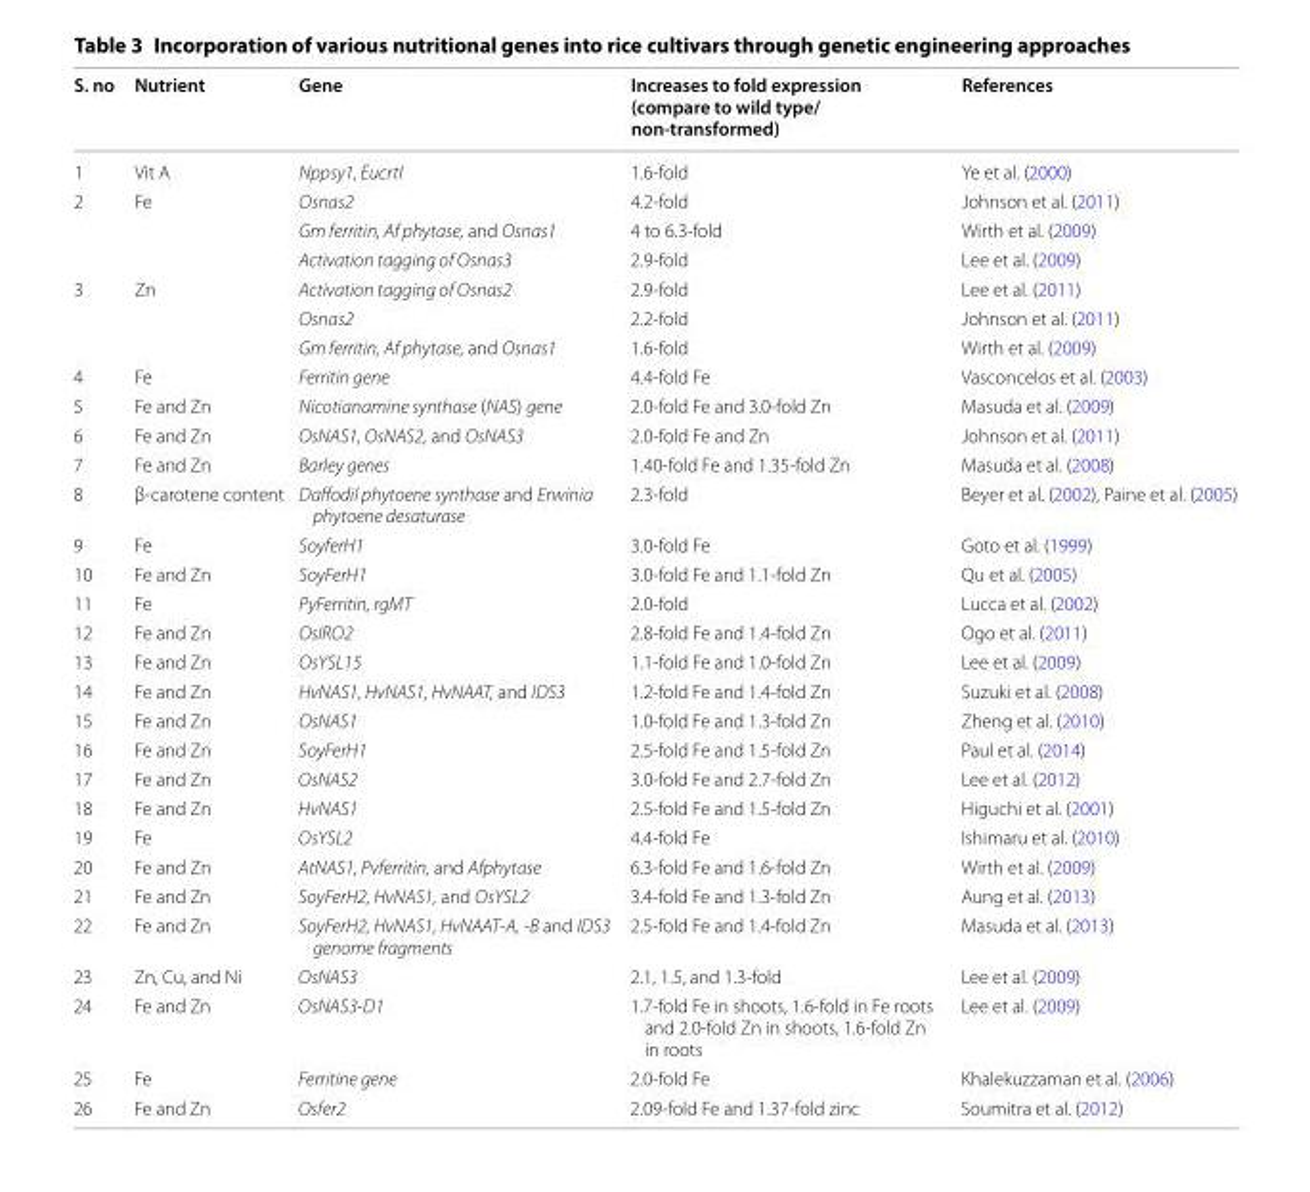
<table><thead><tr><td>S. no</td><td>Nutrient</td><td>Gene</td><td>Increases to fold expression (compare to wild type/ non-transformed)</td><td>References</td></tr></thead><tbody><tr><td>1</td><td>Vit A</td><td>Nppsy1, EucrtI</td><td>1.6-fold</td><td>Ye et al. (2000)</td></tr><tr><td rowspan="3">2</td><td rowspan="3">Fe</td><td>Osnas2</td><td>4.2-fold</td><td>Johnson et al. (2011)</td></tr><tr><td>Gm ferritin, Af phytase, and Osnas1</td><td>4 to 6.3-fold</td><td>Wirth et al. (2009)</td></tr><tr><td>Activation tagging of Osnas3</td><td>2.9-fold</td><td>Lee et al. (2009)</td></tr><tr><td rowspan="3">3</td><td rowspan="3">Zn</td><td>Activation tagging of Osnas2</td><td>2.9-fold</td><td>Lee et al. (2011)</td></tr><tr><td>Osnas2</td><td>2.2-fold</td><td>Johnson et al. (2011)</td></tr><tr><td>Gm ferritin, Af phytase, and Osnas1</td><td>1.6-fold</td><td>Wirth et al. (2009)</td></tr><tr><td>4</td><td>Fe</td><td>Ferritin gene</td><td>4.4-fold Fe</td><td>Vasconcelos et al. (2003)</td></tr><tr><td>5</td><td>Fe and Zn</td><td>Nicotianamine synthase (NAS) gene</td><td>2.0-fold Fe and 3.0-fold Zn</td><td>Masuda et al. (2009)</td></tr><tr><td>6</td><td>Fe and Zn</td><td>OsNAS1, OsNAS2, and OsNAS3</td><td>2.0-fold Fe and Zn</td><td>Johnson et al. (2011)</td></tr><tr><td>7</td><td>Fe and Zn</td><td>Barley genes</td><td>1.40-fold Fe and 1.35-fold Zn</td><td>Masuda et al. (2008)</td></tr><tr><td>8</td><td>β-carotene content</td><td>Daffodil phytoene synthase and Erwinia phytoene desaturase</td><td>2.3-fold</td><td>Beyer et al. (2002), Paine et al. (2005)</td></tr><tr><td>9</td><td>Fe</td><td>SoyferH1</td><td>3.0-fold Fe</td><td>Goto et al. (1999)</td></tr><tr><td>10</td><td>Fe and Zn</td><td>SoyFerH1</td><td>3.0-fold Fe and 1.1-fold Zn</td><td>Qu et al. (2005)</td></tr><tr><td>11</td><td>Fe</td><td>PyFerritin, rgMT</td><td>2.0-fold</td><td>Lucca et al. (2002)</td></tr><tr><td>12</td><td>Fe and Zn</td><td>OsIRO2</td><td>2.8-fold Fe and 1.4-fold Zn</td><td>Ogo et al. (2011)</td></tr><tr><td>13</td><td>Fe and Zn</td><td>OsYSL15</td><td>1.1-fold Fe and 1.0-fold Zn</td><td>Lee et al. (2009)</td></tr><tr><td>14</td><td>Fe and Zn</td><td>HvNAS1, HvNAS1, HvNAAT, and IDS3</td><td>1.2-fold Fe and 1.4-fold Zn</td><td>Suzuki et al. (2008)</td></tr><tr><td>15</td><td>Fe and Zn</td><td>OsNAS1</td><td>1.0-fold Fe and 1.3-fold Zn</td><td>Zheng et al. (2010)</td></tr><tr><td>16</td><td>Fe and Zn</td><td>SoyFerH1</td><td>2.5-fold Fe and 1.5-fold Zn</td><td>Paul et al. (2014)</td></tr><tr><td>17</td><td>Fe and Zn</td><td>OsNAS2</td><td>3.0-fold Fe and 2.7-fold Zn</td><td>Lee et al. (2012)</td></tr><tr><td>18</td><td>Fe and Zn</td><td>HvNAS1</td><td>2.5-fold Fe and 1.5-fold Zn</td><td>Higuchi et al. (2001)</td></tr><tr><td>19</td><td>Fe</td><td>OsYSL2</td><td>4.4-fold Fe</td><td>Ishimaru et al. (2010)</td></tr><tr><td>20</td><td>Fe and Zn</td><td>AtNAS1, Pvferritin, and Afphytase</td><td>6.3-fold Fe and 1.6-fold Zn</td><td>Wirth et al. (2009)</td></tr><tr><td>21</td><td>Fe and Zn</td><td>SoyFerH2, HvNAS1, and OsYSL2</td><td>3.4-fold Fe and 1.3-fold Zn</td><td>Aung et al. (2013)</td></tr><tr><td>22</td><td>Fe and Zn</td><td>SoyFerH2, HvNAS1, HvNAAT-A, -B and IDS3 genome fragments</td><td>2.5-fold Fe and 1.4-fold Zn</td><td>Masuda et al. (2013)</td></tr><tr><td>23</td><td>Zn, Cu, and Ni</td><td>OsNAS3</td><td>2.1, 1.5, and 1.3-fold</td><td>Lee et al. (2009)</td></tr><tr><td>24</td><td>Fe and Zn</td><td>OsNAS3-D1</td><td>1.7-fold Fe in shoots, 1.6-fold in Fe roots and 2.0-fold Zn in shoots, 1.6-fold Zn in roots</td><td>Lee et al. (2009)</td></tr><tr><td>25</td><td>Fe</td><td>Ferritine gene</td><td>2.0-fold Fe</td><td>Khalekuzzaman et al. (2006)</td></tr><tr><td>26</td><td>Fe and Zn</td><td>Osfer2</td><td>2.09-fold Fe and 1.37-fold zinc</td><td>Soumitra et al. (2012)</td></tr></tbody></table>